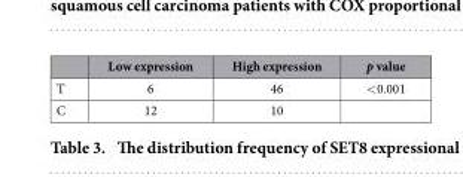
<table><thead><tr><td></td><td>Low expression</td><td>High expression</td><td>p value</td></tr></thead><tbody><tr><td>T</td><td>6</td><td>46</td><td>&lt; 0.001</td></tr><tr><td>C</td><td>12</td><td>10</td><td></td></tr></tbody></table>